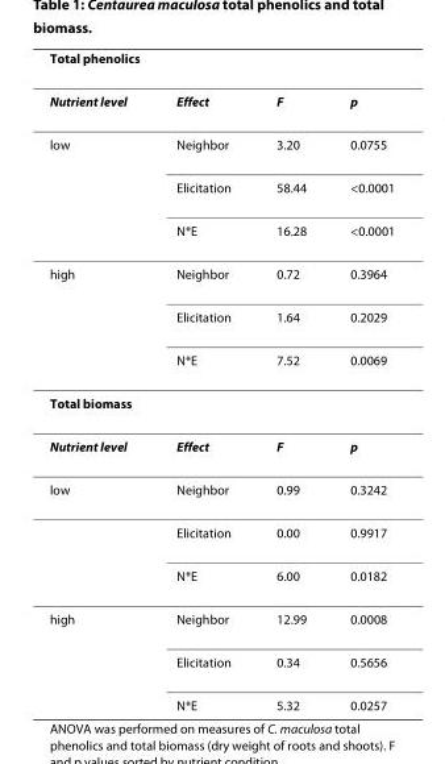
<table><thead><tr><td colspan="4">Total phenolics</td></tr><tr><td>Nutrient level</td><td>Effect</td><td>F</td><td>p</td></tr></thead><tbody><tr><td rowspan="3">low</td><td>Neighbor</td><td>3.20</td><td>0.0755</td></tr><tr><td>Elicitation</td><td>58.44</td><td>&lt;0.0001</td></tr><tr><td>N*E</td><td>16.28</td><td>&lt;0.0001</td></tr><tr><td rowspan="3">high</td><td>Neighbor</td><td>0.72</td><td>0.3964</td></tr><tr><td>Elicitation</td><td>1.64</td><td>0.2029</td></tr><tr><td>N*E</td><td>7.52</td><td>0.0069</td></tr><tr><td colspan="4">Total biomass</td></tr><tr><td>Nutrient level</td><td>Effect</td><td>F</td><td>p</td></tr><tr><td rowspan="3">low</td><td>Neighbor</td><td>0.99</td><td>0.3242</td></tr><tr><td>Elicitation</td><td>0.00</td><td>0.9917</td></tr><tr><td>N*E</td><td>6.00</td><td>0.0182</td></tr><tr><td rowspan="3">high</td><td>Neighbor</td><td>12.99</td><td>0.0008</td></tr><tr><td>Elicitation</td><td>0.34</td><td>0.5656</td></tr><tr><td>N*E</td><td>5.32</td><td>0.0257</td></tr></tbody></table>